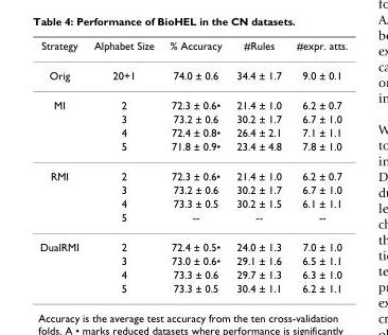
<table><thead><tr><td>Strategy</td><td>Alphabet Size</td><td>% Accuracy</td><td>#Rules</td><td>#expr. atts.</td></tr></thead><tbody><tr><td>Orig</td><td>20+1</td><td>74.0 ± 0.6</td><td>34.4 ± 1.7</td><td>9.0 ± 0.1</td></tr><tr><td rowspan="4">MI</td><td>2</td><td>72.3 ± 0.6•</td><td>21.4 ± 1.0</td><td>6.2 ± 0.7</td></tr><tr><td>3</td><td>73.2 ± 0.6</td><td>30.2 ± 1.7</td><td>6.7 ± 1.0</td></tr><tr><td>4</td><td>72.4 ± 0.8•</td><td>26.4 ± 2.1</td><td>7.1 ± 1.1</td></tr><tr><td>5</td><td>71.8 ± 0.9•</td><td>23.4 ± 4.8</td><td>7.8 ± 1.0</td></tr><tr><td rowspan="4">RMI</td><td>2</td><td>72.3 ± 0.6•</td><td>21.4 ± 1.0</td><td>6.2 ± 0.7</td></tr><tr><td>3</td><td>73.2 ± 0.6</td><td>30.2 ± 1.7</td><td>6.7 ± 1.0</td></tr><tr><td>4</td><td>73.3 ± 0.5</td><td>30.2 ± 1.5</td><td>6.1 ± 1.1</td></tr><tr><td>5</td><td>--</td><td>--</td><td>--</td></tr><tr><td rowspan="4">DualRMI</td><td>2</td><td>72.4 ± 0.5•</td><td>24.0 ± 1.3</td><td>7.0 ± 1.0</td></tr><tr><td>3</td><td>73.0 ± 0.6•</td><td>29.1 ± 1.6</td><td>6.5 ± 1.1</td></tr><tr><td>4</td><td>73.3 ± 0.6</td><td>29.7 ± 1.3</td><td>6.3 ± 1.0</td></tr><tr><td>5</td><td>73.3 ± 0.5</td><td>30.4 ± 1.1</td><td>6.2 ± 1.1</td></tr></tbody></table>